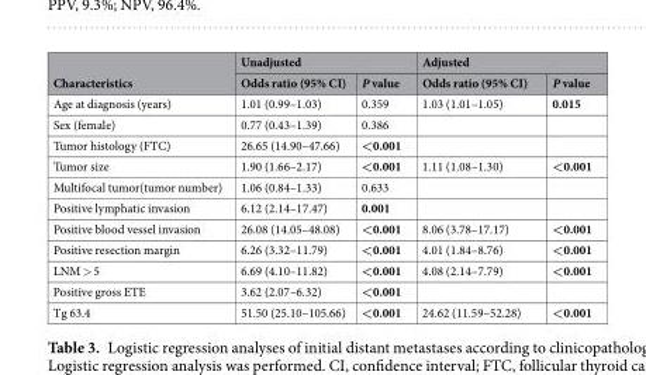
<table><thead><tr><td rowspan="2">Characteristics</td><td colspan="2">Unadjusted</td><td colspan="2">Adjusted</td></tr><tr><td>Odds ratio (95% CI)</td><td>P value</td><td>Odds ratio (95% CI)</td><td>P value</td></tr></thead><tbody><tr><td>Age at diagnosis (years)</td><td>1.01 (0.99–1.03)</td><td>0.359</td><td>1.03 (1.01–1.05)</td><td>0.015</td></tr><tr><td>Sex (female)</td><td>0.77 (0.43–1.39)</td><td>0.386</td><td></td><td></td></tr><tr><td>Tumor histology (FTC)</td><td>26.65 (14.90–47.66)</td><td>&lt;0.001</td><td></td><td></td></tr><tr><td>Tumor size</td><td>1.90 (1.66–2.17)</td><td>&lt;0.001</td><td>1.11 (1.08–1.30)</td><td>&lt;0.001</td></tr><tr><td>Multifocal tumor(tumor number)</td><td>1.06 (0.84–1.33)</td><td>0.633</td><td></td><td></td></tr><tr><td>Positive lymphatic invasion</td><td>6.12 (2.14–17.47)</td><td>0.001</td><td></td><td></td></tr><tr><td>Positive blood vessel invasion</td><td>26.08 (14.05–48.08)</td><td>&lt;0.001</td><td>8.06 (3.78–17.17)</td><td>&lt;0.001</td></tr><tr><td>Positive resection margin</td><td>6.26 (3.32–11.79)</td><td>&lt;0.001</td><td>4.01 (1.84–8.76)</td><td>&lt;0.001</td></tr><tr><td>LNM &gt; 5</td><td>6.69 (4.10–11.82)</td><td>&lt;0.001</td><td>4.08 (2.14–7.79)</td><td>&lt;0.001</td></tr><tr><td>Positive gross ETE</td><td>3.62 (2.07–6.32)</td><td>&lt;0.001</td><td></td><td></td></tr><tr><td>Tg 63.4</td><td>51.50 (25.10–105.66)</td><td>&lt;0.001</td><td>24.62 (11.59–52.28)</td><td>&lt;0.001</td></tr></tbody></table>